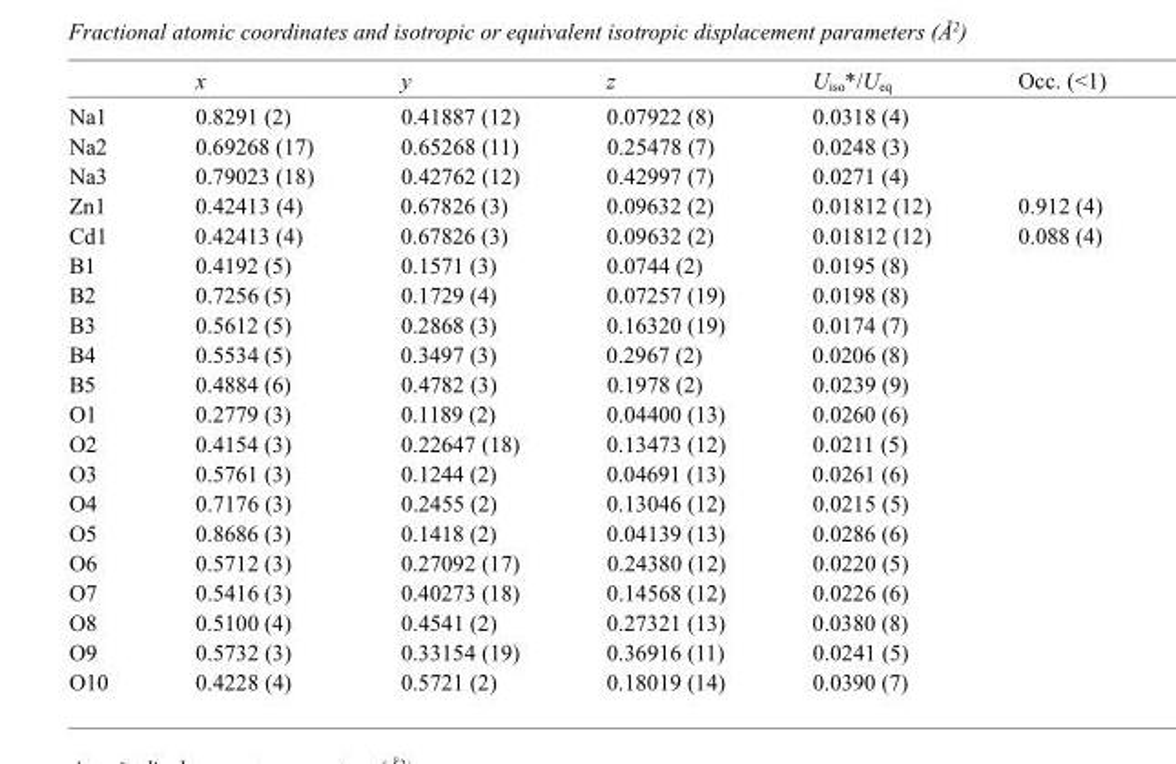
<table><thead><tr><td></td><td>x</td><td>y</td><td>z</td><td>U<sub>iso</sub>*/U<sub>eq</sub></td><td>Occ. (&lt;1)</td></tr></thead><tbody><tr><td>Na1</td><td>0.8291 (2)</td><td>0.41887 (12)</td><td>0.07922 (8)</td><td>0.0318 (4)</td><td></td></tr><tr><td>Na2</td><td>0.69268 (17)</td><td>0.65268 (11)</td><td>0.25478 (7)</td><td>0.0248 (3)</td><td></td></tr><tr><td>Na3</td><td>0.79023 (18)</td><td>0.42762 (12)</td><td>0.42997 (7)</td><td>0.0271 (4)</td><td></td></tr><tr><td>Zn1</td><td>0.42413 (4)</td><td>0.67826 (3)</td><td>0.09632 (2)</td><td>0.01812 (12)</td><td>0.912 (4)</td></tr><tr><td>Cd1</td><td>0.42413 (4)</td><td>0.67826 (3)</td><td>0.09632 (2)</td><td>0.01812 (12)</td><td>0.088 (4)</td></tr><tr><td>B1</td><td>0.4192 (5)</td><td>0.1571 (3)</td><td>0.0744 (2)</td><td>0.0195 (8)</td><td></td></tr><tr><td>B2</td><td>0.7256 (5)</td><td>0.1729 (4)</td><td>0.07257 (19)</td><td>0.0198 (8)</td><td></td></tr><tr><td>B3</td><td>0.5612 (5)</td><td>0.2868 (3)</td><td>0.16320 (19)</td><td>0.0174 (7)</td><td></td></tr><tr><td>B4</td><td>0.5534 (5)</td><td>0.3497 (3)</td><td>0.2967 (2)</td><td>0.0206 (8)</td><td></td></tr><tr><td>B5</td><td>0.4884 (6)</td><td>0.4782 (3)</td><td>0.1978 (2)</td><td>0.0239 (9)</td><td></td></tr><tr><td>O1</td><td>0.2779 (3)</td><td>0.1189 (2)</td><td>0.04400 (13)</td><td>0.0260 (6)</td><td></td></tr><tr><td>O2</td><td>0.4154 (3)</td><td>0.22647 (18)</td><td>0.13473 (12)</td><td>0.0211 (5)</td><td></td></tr><tr><td>O3</td><td>0.5761 (3)</td><td>0.1244 (2)</td><td>0.04691 (13)</td><td>0.0261 (6)</td><td></td></tr><tr><td>O4</td><td>0.7176 (3)</td><td>0.2455 (2)</td><td>0.13046 (12)</td><td>0.0215 (5)</td><td></td></tr><tr><td>O5</td><td>0.8686 (3)</td><td>0.1418 (2)</td><td>0.04139 (13)</td><td>0.0286 (6)</td><td></td></tr><tr><td>O6</td><td>0.5712 (3)</td><td>0.27092 (17)</td><td>0.24380 (12)</td><td>0.0220 (5)</td><td></td></tr><tr><td>O7</td><td>0.5416 (3)</td><td>0.40273 (18)</td><td>0.14568 (12)</td><td>0.0226 (6)</td><td></td></tr><tr><td>O8</td><td>0.5100 (4)</td><td>0.4541 (2)</td><td>0.27321 (13)</td><td>0.0380 (8)</td><td></td></tr><tr><td>O9</td><td>0.5732 (3)</td><td>0.33154 (19)</td><td>0.36916 (11)</td><td>0.0241 (5)</td><td></td></tr><tr><td>O10</td><td>0.4228 (4)</td><td>0.5721 (2)</td><td>0.18019 (14)</td><td>0.0390 (7)</td><td></td></tr></tbody></table>